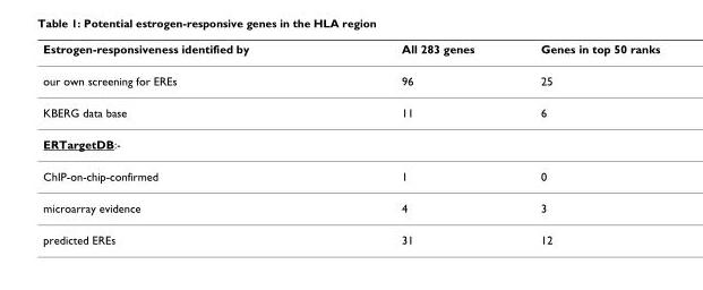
<table><thead><tr><td>Estrogen-responsiveness identified by</td><td>All 283 genes</td><td>Genes in top 50 ranks</td></tr></thead><tbody><tr><td>our own screening for EREs</td><td>96</td><td>25</td></tr><tr><td>KBERG data base</td><td>11</td><td>6</td></tr><tr><td colspan="3">ERTargetDB:-</td></tr><tr><td>ChIP-on-chip-confirmed</td><td>1</td><td>0</td></tr><tr><td>microarray evidence</td><td>4</td><td>3</td></tr><tr><td>predicted EREs</td><td>31</td><td>12</td></tr></tbody></table>